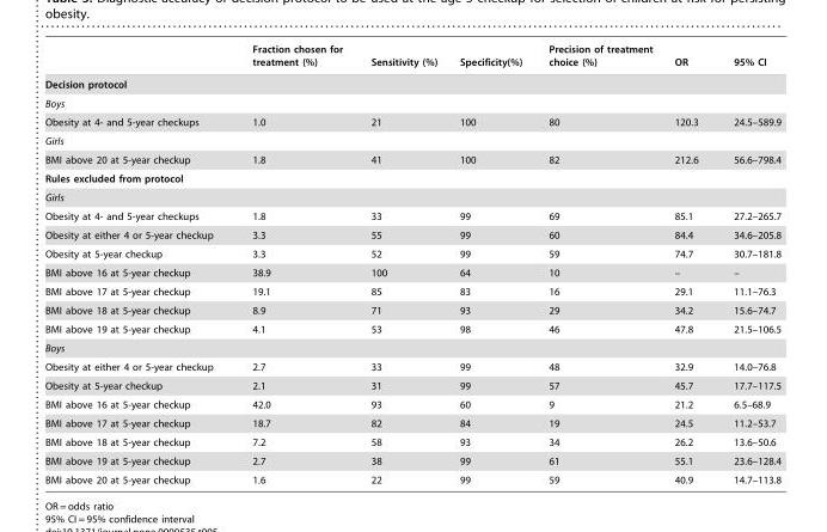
<table><thead><tr><td></td><td>Fraction chosen for treatment (%)</td><td>Sensitivity (%)</td><td>Specificity(%)</td><td>Precision of treatment choice (%)</td><td>OR</td><td>95% CI</td></tr></thead><tbody><tr><td colspan="7">Decision protocol</td></tr><tr><td colspan="7">Boys</td></tr><tr><td>Obesity at 4- and 5-year checkups</td><td>1.0</td><td>21</td><td>100</td><td>80</td><td>120.3</td><td>24.5–589.9</td></tr><tr><td colspan="7">Girls</td></tr><tr><td>BMI above 20 at 5-year checkup</td><td>1.8</td><td>41</td><td>100</td><td>82</td><td>212.6</td><td>56.6–798.4</td></tr><tr><td colspan="7">Rules excluded from protocol</td></tr><tr><td colspan="7">Girls</td></tr><tr><td>Obesity at 4- and 5-year checkups</td><td>1.8</td><td>33</td><td>99</td><td>69</td><td>85.1</td><td>27.2–265.7</td></tr><tr><td>Obesity at either 4 or 5-year checkup</td><td>3.3</td><td>55</td><td>99</td><td>60</td><td>84.4</td><td>34.6–205.8</td></tr><tr><td>Obesity at 5-year checkup</td><td>3.3</td><td>52</td><td>99</td><td>59</td><td>74.7</td><td>30.7–181.8</td></tr><tr><td>BMI above 16 at 5-year checkup</td><td>38.9</td><td>100</td><td>64</td><td>10</td><td>–</td><td>–</td></tr><tr><td>BMI above 17 at 5-year checkup</td><td>19.1</td><td>85</td><td>83</td><td>16</td><td>29.1</td><td>11.1–76.3</td></tr><tr><td>BMI above 18 at 5-year checkup</td><td>8.9</td><td>71</td><td>93</td><td>29</td><td>34.2</td><td>15.6–74.7</td></tr><tr><td>BMI above 19 at 5-year checkup</td><td>4.1</td><td>53</td><td>98</td><td>46</td><td>47.8</td><td>21.5–106.5</td></tr><tr><td colspan="7">Boys</td></tr><tr><td>Obesity at either 4 or 5-year checkup</td><td>2.7</td><td>33</td><td>99</td><td>48</td><td>32.9</td><td>14.0–76.8</td></tr><tr><td>Obesity at 5-year checkup</td><td>2.1</td><td>31</td><td>99</td><td>57</td><td>45.7</td><td>17.7–117.5</td></tr><tr><td>BMI above 16 at 5-year checkup</td><td>42.0</td><td>93</td><td>60</td><td>9</td><td>21.2</td><td>6.5–68.9</td></tr><tr><td>BMI above 17 at 5-year checkup</td><td>18.7</td><td>82</td><td>84</td><td>19</td><td>24.5</td><td>11.2–53.7</td></tr><tr><td>BMI above 18 at 5-year checkup</td><td>7.2</td><td>58</td><td>93</td><td>34</td><td>26.2</td><td>13.6–50.6</td></tr><tr><td>BMI above 19 at 5-year checkup</td><td>2.7</td><td>38</td><td>99</td><td>61</td><td>55.1</td><td>23.6–128.4</td></tr><tr><td>BMI above 20 at 5-year checkup</td><td>1.6</td><td>22</td><td>99</td><td>59</td><td>40.9</td><td>14.7–113.8</td></tr></tbody></table>